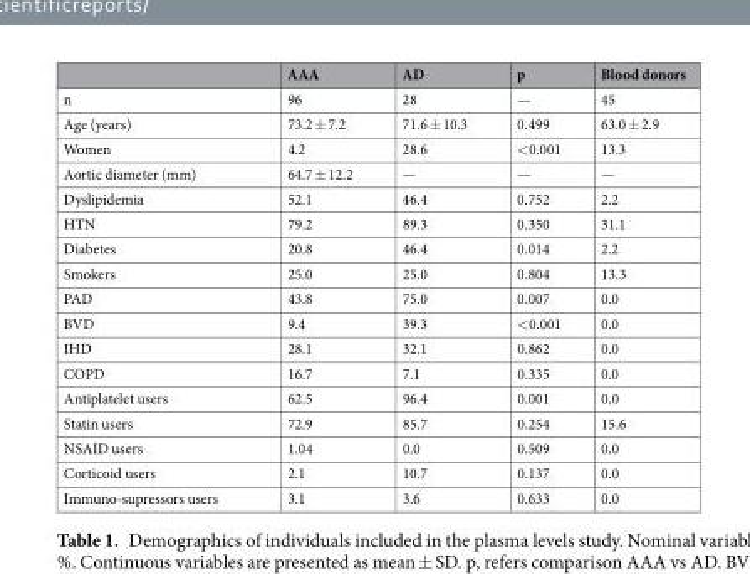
<table><thead><tr><td></td><td>AAA</td><td>AD</td><td>p</td><td>Blood donors</td></tr></thead><tbody><tr><td>n</td><td>96</td><td>28</td><td>—</td><td>45</td></tr><tr><td>Age (years)</td><td>73.2 ± 7.2</td><td>71.6 ± 10.3</td><td>0.499</td><td>63.0 ± 2.9</td></tr><tr><td>Women</td><td>4.2</td><td>28.6</td><td>&lt;0.001</td><td>13.3</td></tr><tr><td>Aortic diameter (mm)</td><td>64.7 ± 12.2</td><td>—</td><td>—</td><td>—</td></tr><tr><td>Dyslipidemia</td><td>52.1</td><td>46.4</td><td>0.752</td><td>2.2</td></tr><tr><td>HTN</td><td>79.2</td><td>89.3</td><td>0.350</td><td>31.1</td></tr><tr><td>Diabetes</td><td>20.8</td><td>46.4</td><td>0.014</td><td>2.2</td></tr><tr><td>Smokers</td><td>25.0</td><td>25.0</td><td>0.804</td><td>13.3</td></tr><tr><td>PAD</td><td>43.8</td><td>75.0</td><td>0.007</td><td>0.0</td></tr><tr><td>BVD</td><td>9.4</td><td>39.3</td><td>&lt;0.001</td><td>0.0</td></tr><tr><td>IHD</td><td>28.1</td><td>32.1</td><td>0.862</td><td>0.0</td></tr><tr><td>COPD</td><td>16.7</td><td>7.1</td><td>0.335</td><td>0.0</td></tr><tr><td>Antiplatelet users</td><td>62.5</td><td>96.4</td><td>0.001</td><td>0.0</td></tr><tr><td>Statin users</td><td>72.9</td><td>85.7</td><td>0.254</td><td>15.6</td></tr><tr><td>NSAID users</td><td>1.04</td><td>0.0</td><td>0.509</td><td>0.0</td></tr><tr><td>Corticoid users</td><td>2.1</td><td>10.7</td><td>0.137</td><td>0.0</td></tr><tr><td>Immuno-supressors users</td><td>3.1</td><td>3.6</td><td>0.633</td><td>0.0</td></tr></tbody></table>